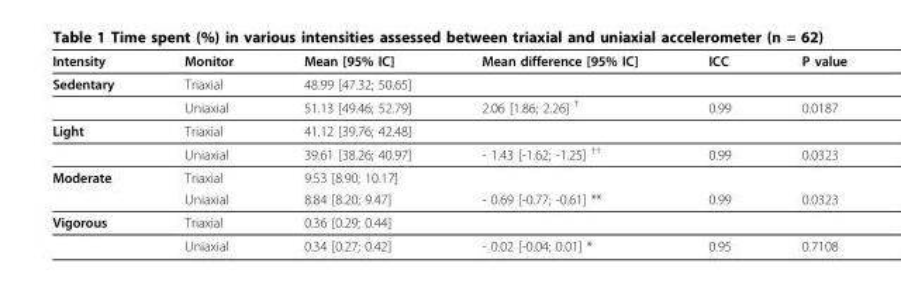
<table><thead><tr><td>Intensity</td><td>Monitor</td><td>Mean [95% IC]</td><td>Mean difference [95% IC]</td><td>ICC</td><td>P value</td></tr></thead><tbody><tr><td rowspan="2">Sedentary</td><td>Triaxial</td><td>48.99 [47.32; 50.65]</td><td></td><td></td><td></td></tr><tr><td>Uniaxial</td><td>51.13 [49.46; 52.79]</td><td>2.06 [1.86; 2.26] <sup>†</sup></td><td>0.99</td><td>0.0187</td></tr><tr><td rowspan="2">Light</td><td>Triaxial</td><td>41.12 [39.76; 42.48]</td><td></td><td></td><td></td></tr><tr><td>Uniaxial</td><td>39.61 [38.26; 40.97]</td><td>- 1.43 [-1.62; -1.25] <sup>††</sup></td><td>0.99</td><td>0.0323</td></tr><tr><td rowspan="2">Moderate</td><td>Triaxial</td><td>9.53 [8.90; 10.17]</td><td></td><td></td><td></td></tr><tr><td>Uniaxial</td><td>8.84 [8.20; 9.47]</td><td>- 0.69 [-0.77; -0.61] **</td><td>0.99</td><td>0.0323</td></tr><tr><td rowspan="2">Vigorous</td><td>Triaxial</td><td>0.36 [0.29; 0.44]</td><td></td><td></td><td></td></tr><tr><td>Uniaxial</td><td>0.34 [0.27; 0.42]</td><td>- 0.02 [-0.04; 0.01] *</td><td>0.95</td><td>0.7108</td></tr></tbody></table>